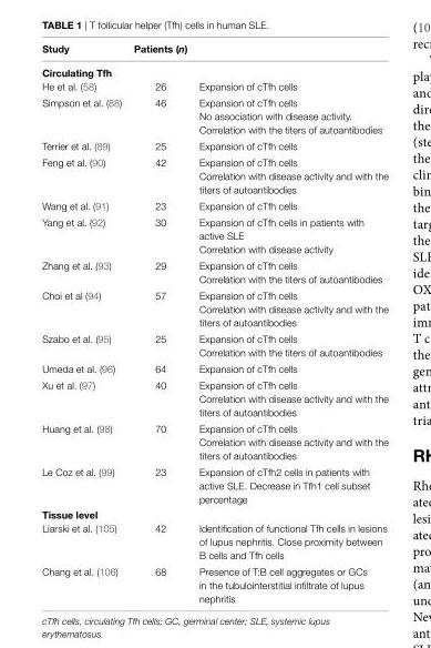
<table><thead><tr><td>Study</td><td>Patients (n)</td><td></td></tr></thead><tbody><tr><td colspan="3">Circulating Tfh</td></tr><tr><td>He et al. (58)</td><td>26</td><td>Expansion of cTfh cells</td></tr><tr><td>Simpson et al. (88)</td><td>46</td><td>Expansion of cTfh cells No association with disease activity. Correlation with the titers of autoantibodies</td></tr><tr><td>Terrier et al. (89)</td><td>25</td><td>Expansion of cTfh cells</td></tr><tr><td>Feng et al. (90)</td><td>42</td><td>Expansion of cTfh cells Correlation with disease activity and with the titers of autoantibodies</td></tr><tr><td>Wang et al. (91)</td><td>23</td><td>Expansion of cTfh cells</td></tr><tr><td>Yang et al. (92)</td><td>30</td><td>Expansion of cTfh cells in patients with active SLE Correlation with disease activity</td></tr><tr><td>Zhang et al. (93)</td><td>29</td><td>Expansion of cTfh cells Correlation with the titers of autoantibodies</td></tr><tr><td>Choi et al (94)</td><td>57</td><td>Expansion of cTfh cells Correlation with disease activity and with the titers of autoantibodies</td></tr><tr><td>Szabo et al. (95)</td><td>25</td><td>Expansion of cTfh cells Correlation with the titers of autoantibodies</td></tr><tr><td>Umeda et al. (96)</td><td>64</td><td>Expansion of cTfh cells</td></tr><tr><td>Xu et al. (97)</td><td>40</td><td>Expansion of cTfh cells Correlation with disease activity and with the titers of autoantibodies</td></tr><tr><td>Huang et al. (98)</td><td>70</td><td>Expansion of cTfh cells Correlation with disease activity and with the titers of autoantibodies</td></tr><tr><td>Le Coz et al. (99)</td><td>23</td><td>Expansion of cTfh2 cells in patients with active SLE. Decrease in Tfh1 cell subset percentage</td></tr><tr><td colspan="3">Tissue level</td></tr><tr><td>Liarski et al. (105)</td><td>42</td><td>Identification of functional Tfh cells in lesions of lupus nephritis. Close proximity between B cells and Tfh cells</td></tr><tr><td>Chang et al. (106)</td><td>68</td><td>Presence of T:B cell aggregates or GCs in the tubulointerstitial infiltrate of lupus nephritis</td></tr></tbody></table>